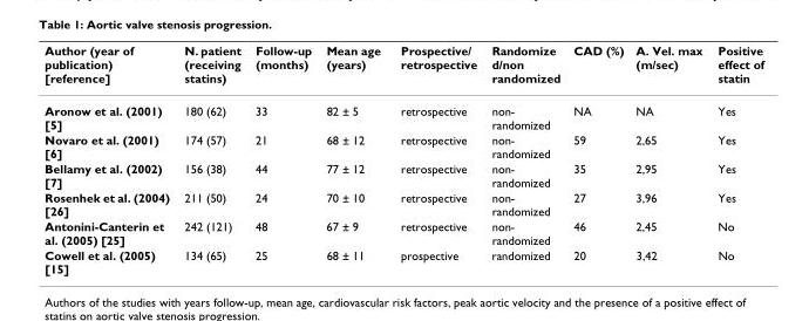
<table><thead><tr><td>Author (year of publication) [reference]</td><td>N. patient (receiving statins)</td><td>Follow-up (months)</td><td>Mean age (years)</td><td>Prospective/ retrospective</td><td>Randomize d/non randomized</td><td>CAD (%)</td><td>A. Vel. max (m/sec)</td><td>Positive effect of statin</td></tr></thead><tbody><tr><td>Aronow et al. (2001) [5]</td><td>180 (62)</td><td>33</td><td>82 ± 5</td><td>retrospective</td><td>non- randomized</td><td>NA</td><td>NA</td><td>Yes</td></tr><tr><td>Novaro et al. (2001) [6]</td><td>174 (57)</td><td>21</td><td>68 ± 12</td><td>retrospective</td><td>non- randomized</td><td>59</td><td>2,65</td><td>Yes</td></tr><tr><td>Bellamy et al. (2002) [7]</td><td>156 (38)</td><td>44</td><td>77 ± 12</td><td>retrospective</td><td>non- randomized</td><td>35</td><td>2,95</td><td>Yes</td></tr><tr><td>Rosenhek et al. (2004) [26]</td><td>211 (50)</td><td>24</td><td>70 ± 10</td><td>retrospective</td><td>non- randomized</td><td>27</td><td>3,96</td><td>Yes</td></tr><tr><td>Antonini-Canterin et al. (2005) [25]</td><td>242 (121)</td><td>48</td><td>67 ± 9</td><td>retrospective</td><td>non- randomized</td><td>46</td><td>2,45</td><td>No</td></tr><tr><td>Cowell et al. (2005) [15]</td><td>134 (65)</td><td>25</td><td>68 ± 11</td><td>prospective</td><td>randomized</td><td>20</td><td>3,42</td><td>No</td></tr></tbody></table>